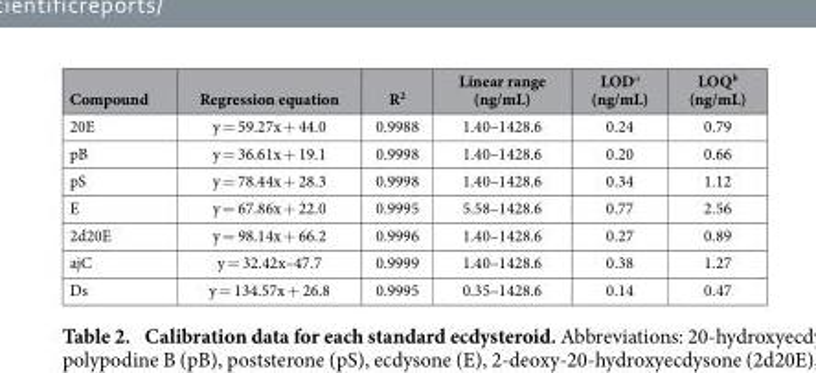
<table><thead><tr><td>Compound</td><td>Regression equation</td><td>R<sup>2</sup></td><td>Linear range (ng/mL)</td><td>LOD<sup>a</sup> (ng/mL)</td><td>LOQ<sup>b</sup> (ng/mL)</td></tr></thead><tbody><tr><td>20E</td><td>y = 59.27x + 44.0</td><td>0.9988</td><td>1.40–1428.6</td><td>0.24</td><td>0.79</td></tr><tr><td>pB</td><td>y = 36.61x + 19.1</td><td>0.9998</td><td>1.40–1428.6</td><td>0.20</td><td>0.66</td></tr><tr><td>pS</td><td>y = 78.44x + 28.3</td><td>0.9998</td><td>1.40–1428.6</td><td>0.34</td><td>1.12</td></tr><tr><td>E</td><td>y = 67.86x + 22.0</td><td>0.9995</td><td>5.58–1428.6</td><td>0.77</td><td>2.56</td></tr><tr><td>2d20E</td><td>y = 98.14x + 66.2</td><td>0.9996</td><td>1.40–1428.6</td><td>0.27</td><td>0.89</td></tr><tr><td>ajC</td><td>y = 32.42x–47.7</td><td>0.9999</td><td>1.40–1428.6</td><td>0.38</td><td>1.27</td></tr><tr><td>Ds</td><td>y = 134.57x + 26.8</td><td>0.9995</td><td>0.35–1428.6</td><td>0.14</td><td>0.47</td></tr></tbody></table>